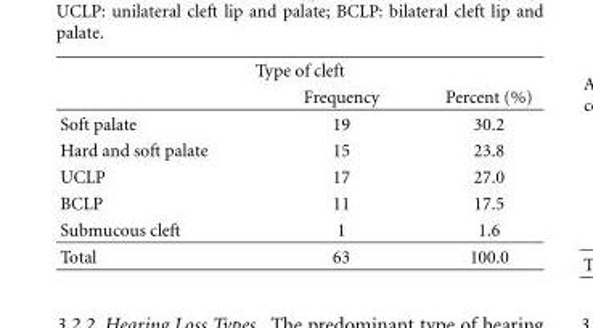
<table><thead><tr><td colspan="3">Type of cleft</td></tr><tr><td></td><td>Frequency</td><td>Percent (%)</td></tr></thead><tbody><tr><td>Soft palate</td><td>19</td><td>30.2</td></tr><tr><td>Hard and soft palate</td><td>15</td><td>23.8</td></tr><tr><td>UCLP</td><td>17</td><td>27.0</td></tr><tr><td>BCLP</td><td>11</td><td>17.5</td></tr><tr><td>Submucous cleft</td><td>1</td><td>1.6</td></tr><tr><td>Total</td><td>63</td><td>100.0</td></tr></tbody></table>